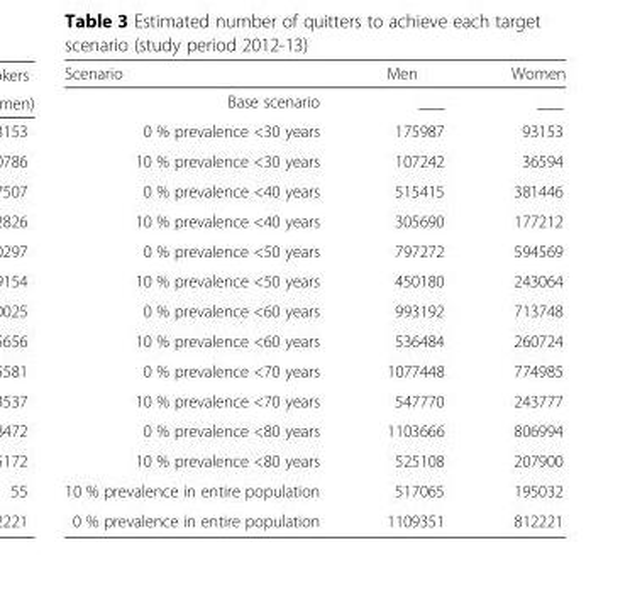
<table><thead><tr><td>Scenario</td><td>Men</td><td>Women</td></tr></thead><tbody><tr><td>Base scenario</td><td>___</td><td>___</td></tr><tr><td>0 % prevalence &lt;30 years</td><td>175987</td><td>93153</td></tr><tr><td>10 % prevalence &lt;30 years</td><td>107242</td><td>36594</td></tr><tr><td>0 % prevalence &lt;40 years</td><td>515415</td><td>381446</td></tr><tr><td>10 % prevalence &lt;40 years</td><td>305690</td><td>177212</td></tr><tr><td>0 % prevalence &lt;50 years</td><td>797272</td><td>594569</td></tr><tr><td>10 % prevalence &lt;50 years</td><td>450180</td><td>243064</td></tr><tr><td>0 % prevalence &lt;60 years</td><td>993192</td><td>713748</td></tr><tr><td>10 % prevalence &lt;60 years</td><td>536484</td><td>260724</td></tr><tr><td>0 % prevalence &lt;70 years</td><td>1077448</td><td>774985</td></tr><tr><td>10 % prevalence &lt;70 years</td><td>547770</td><td>243777</td></tr><tr><td>0 % prevalence &lt;80 years</td><td>1103666</td><td>806994</td></tr><tr><td>10 % prevalence &lt;80 years</td><td>525108</td><td>207900</td></tr><tr><td>10 % prevalence in entire population</td><td>517065</td><td>195032</td></tr><tr><td>0 % prevalence in entire population</td><td>1109351</td><td>812221</td></tr></tbody></table>